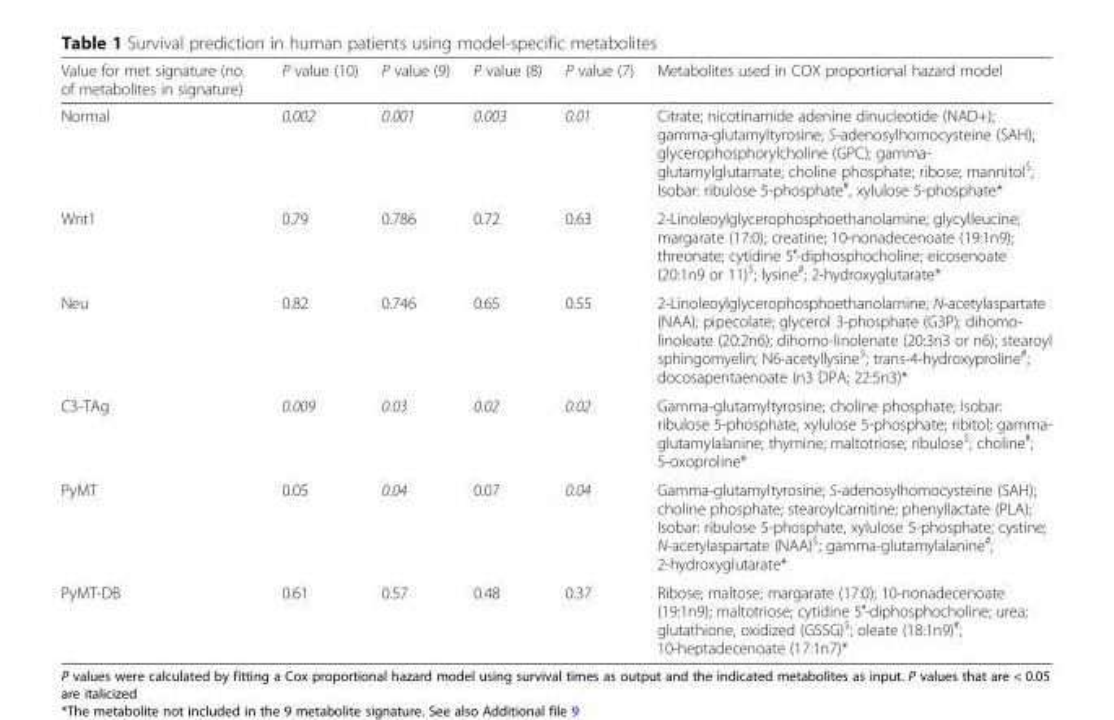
<table><thead><tr><td>Value for met signature (no. of metabolites in signature)</td><td>P value (10)</td><td>P value (9)</td><td>P value (8)</td><td>P value (7)</td><td>Metabolites used in COX proportional hazard model</td></tr></thead><tbody><tr><td>Normal</td><td>0.002</td><td>0.001</td><td>0.003</td><td>0.01</td><td>Citrate; nicotinamide adenine dinucleotide (NAD+); gamma-glutamyltyrosine; S-adenosylhomocysteine (SAH); glycerophosphorylcholine (GPC); gamma- glutamylglutamate; choline phosphate; ribose; mannitol<sup>$</sup>; Isobar: ribulose 5-phosphate<sup>#</sup>, xylulose 5-phosphate*</td></tr><tr><td>Wnt1</td><td>0.79</td><td>0.786</td><td>0.72</td><td>0.63</td><td>2-Linoleoylglycerophosphoethanolamine; glycylleucine; margarate (17:0); creatine; 10-nonadecenoate (19:1n9); threonate; cytidine 5′-diphosphocholine; eicosenoate (20:1n9 or 11)<sup>$</sup>; lysine<sup>#</sup>; 2-hydroxyglutarate*</td></tr><tr><td>Neu</td><td>0.82</td><td>0.746</td><td>0.65</td><td>0.55</td><td>2-Linoleoylglycerophosphoethanolamine; N-acetylaspartate (NAA); pipecolate; glycerol 3-phosphate (G3P); dihomo- linoleate (20:2n6); dihomo-linolenate (20:3n3 or n6); stearoyl sphingomyelin; N6-acetyllysine<sup>$</sup>; trans-4-hydroxyproline<sup>#</sup>; docosapentaenoate (n3 DPA; 22:5n3)*</td></tr><tr><td>C3-TAg</td><td>0.009</td><td>0.03</td><td>0.02</td><td>0.02</td><td>Gamma-glutamyltyrosine; choline phosphate; Isobar: ribulose 5-phosphate, xylulose 5-phosphate; ribitol; gamma- glutamylalanine; thymine; maltotriose; ribulose<sup>$</sup>; choline<sup>#</sup>; 5-oxoproline*</td></tr><tr><td>PyMT</td><td>0.05</td><td>0.04</td><td>0.07</td><td>0.04</td><td>Gamma-glutamyltyrosine; S-adenosylhomocysteine (SAH); choline phosphate; stearoylcarnitine; phenyllactate (PLA); Isobar: ribulose 5-phosphate, xylulose 5-phosphate; cystine; N-acetylaspartate (NAA)<sup>$</sup>; gamma-glutamylalanine<sup>#</sup>; 2-hydroxyglutarate*</td></tr><tr><td>PyMT-DB</td><td>0.61</td><td>0.57</td><td>0.48</td><td>0.37</td><td>Ribose; maltose; margarate (17:0); 10-nonadecenoate (19:1n9); maltotriose; cytidine 5′-diphosphocholine; urea; glutathione, oxidized (GSSG)<sup>$</sup>; oleate (18:1n9)<sup>#</sup>; 10-heptadecenoate (17:1n7)*</td></tr></tbody></table>